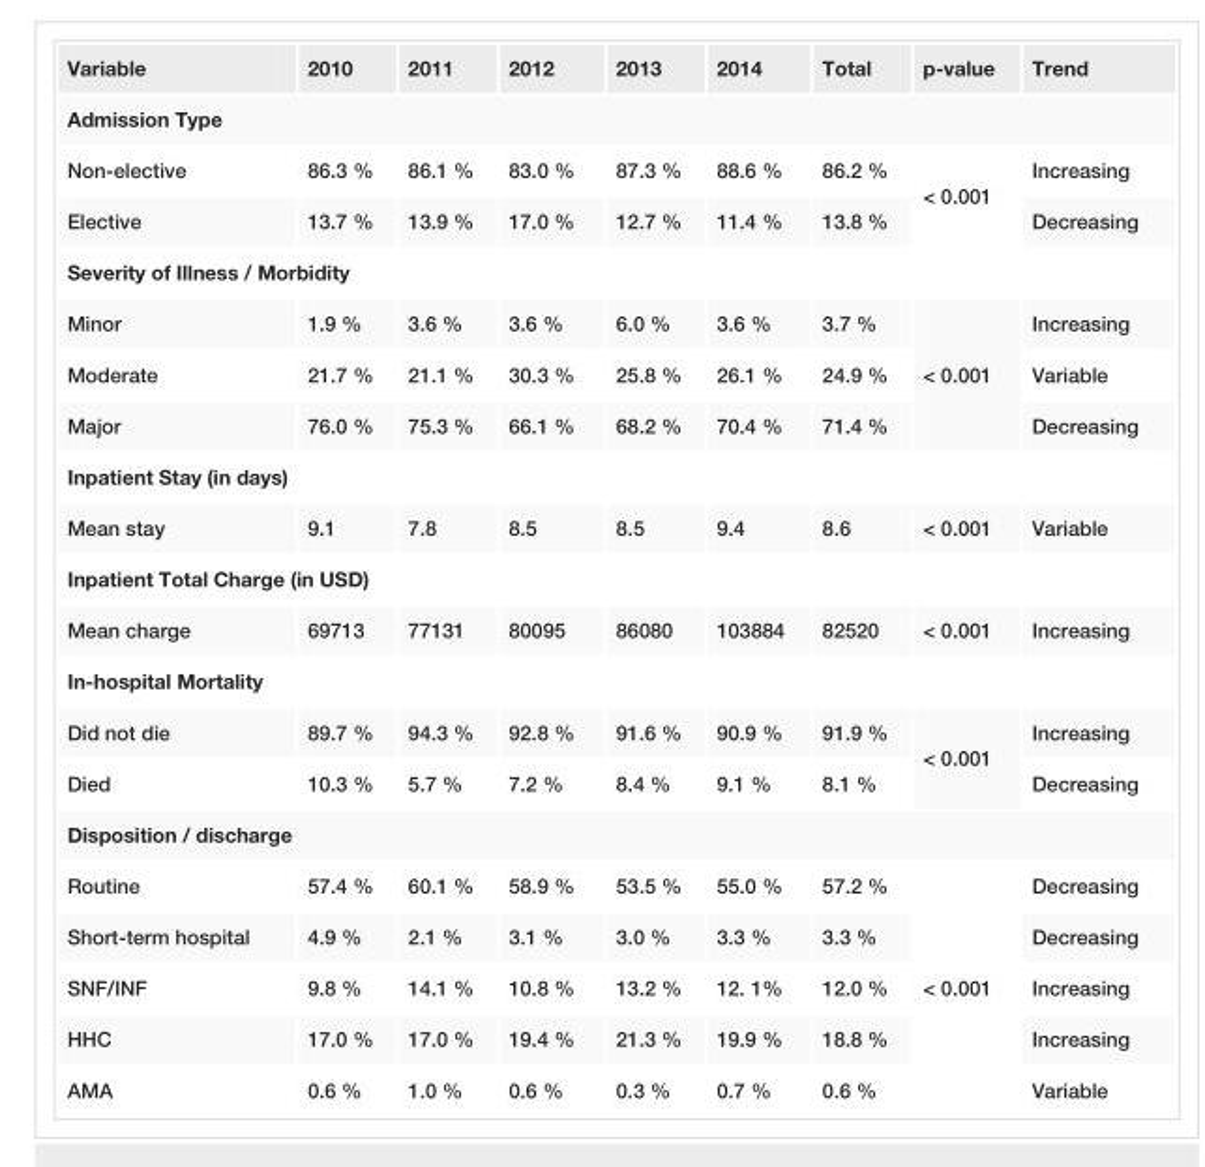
<table><tbody><tr><td>Variable</td><td>2010</td><td>2011</td><td>2012</td><td>2013</td><td>2014</td><td>Total</td><td>p-value</td><td>Trend</td></tr><tr><td colspan="9">Admission Type</td></tr><tr><td>Non-elective</td><td>86.3 %</td><td>86.1 %</td><td>83.0 %</td><td>87.3 %</td><td>88.6 %</td><td>86.2 %</td><td rowspan="2">&lt; 0.001</td><td>Increasing</td></tr><tr><td>Elective</td><td>13.7 %</td><td>13.9 %</td><td>17.0 %</td><td>12.7 %</td><td>11.4 %</td><td>13.8 %</td><td>Decreasing</td></tr><tr><td colspan="9">Severity of Illness / Morbidity</td></tr><tr><td>Minor</td><td>1.9 %</td><td>3.6 %</td><td>3.6 %</td><td>6.0 %</td><td>3.6 %</td><td>3.7 %</td><td rowspan="3">&lt; 0.001</td><td>Increasing</td></tr><tr><td>Moderate</td><td>21.7 %</td><td>21.1 %</td><td>30.3 %</td><td>25.8 %</td><td>26.1 %</td><td>24.9 %</td><td>Variable</td></tr><tr><td>Major</td><td>76.0 %</td><td>75.3 %</td><td>66.1 %</td><td>68.2 %</td><td>70.4 %</td><td>71.4 %</td><td>Decreasing</td></tr><tr><td colspan="9">Inpatient Stay (in days)</td></tr><tr><td>Mean stay</td><td>9.1</td><td>7.8</td><td>8.5</td><td>8.5</td><td>9.4</td><td>8.6</td><td>&lt; 0.001</td><td>Variable</td></tr><tr><td colspan="9">Inpatient Total Charge (in USD)</td></tr><tr><td>Mean charge</td><td>69713</td><td>77131</td><td>80095</td><td>86080</td><td>103884</td><td>82520</td><td>&lt; 0.001</td><td>Increasing</td></tr><tr><td colspan="9">In-hospital Mortality</td></tr><tr><td>Did not die</td><td>89.7 %</td><td>94.3 %</td><td>92.8 %</td><td>91.6 %</td><td>90.9 %</td><td>91.9 %</td><td rowspan="2">&lt; 0.001</td><td>Increasing</td></tr><tr><td>Died</td><td>10.3 %</td><td>5.7 %</td><td>7.2 %</td><td>8.4 %</td><td>9.1 %</td><td>8.1 %</td><td>Decreasing</td></tr><tr><td colspan="9">Disposition / discharge</td></tr><tr><td>Routine</td><td>57.4 %</td><td>60.1 %</td><td>58.9 %</td><td>53.5 %</td><td>55.0 %</td><td>57.2 %</td><td rowspan="5">&lt; 0.001</td><td>Decreasing</td></tr><tr><td>Short-term hospital</td><td>4.9 %</td><td>2.1 %</td><td>3.1 %</td><td>3.0 %</td><td>3.3 %</td><td>3.3 %</td><td>Decreasing</td></tr><tr><td>SNF/INF</td><td>9.8 %</td><td>14.1 %</td><td>10.8 %</td><td>13.2 %</td><td>12. 1%</td><td>12.0 %</td><td>Increasing</td></tr><tr><td>HHC</td><td>17.0 %</td><td>17.0 %</td><td>19.4 %</td><td>21.3 %</td><td>19.9 %</td><td>18.8 %</td><td>Increasing</td></tr><tr><td>AMA</td><td>0.6 %</td><td>1.0 %</td><td>0.6 %</td><td>0.3 %</td><td>0.7 %</td><td>0.6 %</td><td>Variable</td></tr></tbody></table>